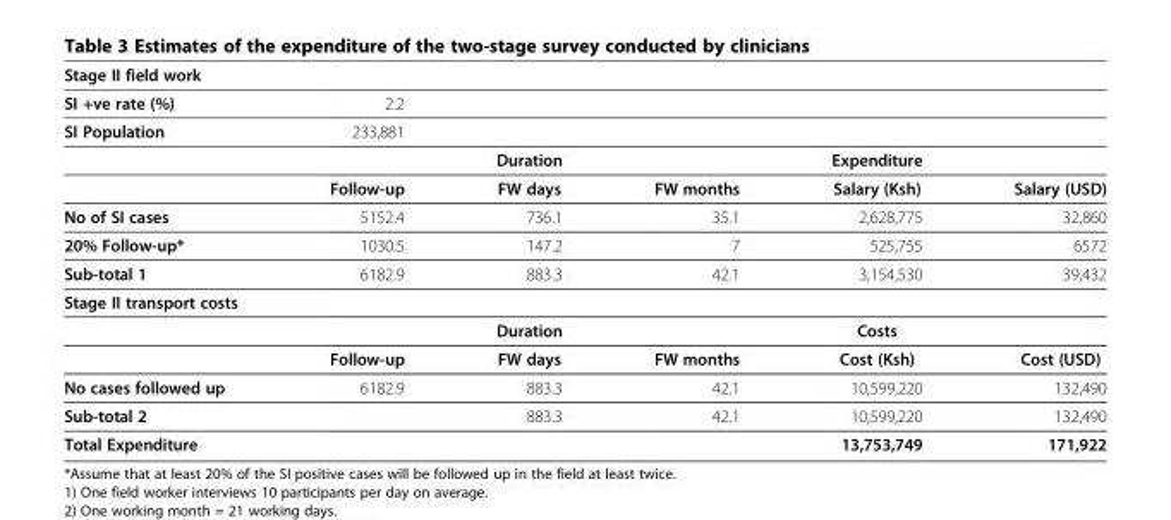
<table><thead><tr><td>Stage II field work</td><td></td><td></td><td></td><td></td><td></td></tr></thead><tbody><tr><td>SI +ve rate (%)</td><td>2.2</td><td></td><td></td><td></td><td></td></tr><tr><td rowspan="3">SI Population</td><td>233,881</td><td></td><td></td><td></td><td></td></tr><tr><td></td><td>Duration</td><td></td><td>Expenditure</td><td></td></tr><tr><td>Follow-up</td><td>FW days</td><td>FW months</td><td>Salary (Ksh)</td><td>Salary (USD)</td></tr><tr><td>No of SI cases</td><td>5152.4</td><td>736.1</td><td>35.1</td><td>2,628,775</td><td>32,860</td></tr><tr><td>20% Follow-up*</td><td>1030.5</td><td>147.2</td><td>7</td><td>525,755</td><td>6572</td></tr><tr><td>Sub-total 1</td><td>6182.9</td><td>883.3</td><td>42.1</td><td>3,154,530</td><td>39,432</td></tr><tr><td colspan="6">Stage II transport costs</td></tr><tr><td></td><td></td><td>Duration</td><td></td><td>Costs</td><td></td></tr><tr><td></td><td>Follow-up</td><td>FW days</td><td>FW months</td><td>Cost (Ksh)</td><td>Cost (USD)</td></tr><tr><td>No cases followed up</td><td>6182.9</td><td>883.3</td><td>42.1</td><td>10,599,220</td><td>132,490</td></tr><tr><td>Sub-total 2</td><td></td><td>883.3</td><td>42.1</td><td>10,599,220</td><td>132,490</td></tr><tr><td>Total Expenditure</td><td></td><td></td><td></td><td>13,753,749</td><td>171,922</td></tr></tbody></table>